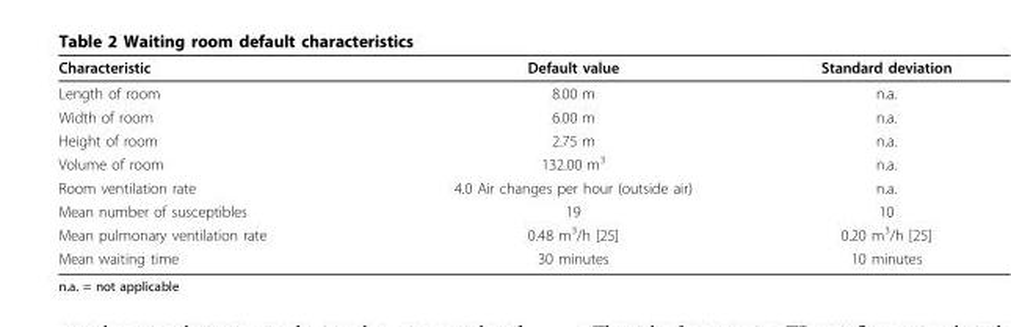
<table><thead><tr><td>Characteristic</td><td>Default value</td><td>Standard deviation</td></tr></thead><tbody><tr><td>Length of room</td><td>8.00 m</td><td>n.a.</td></tr><tr><td>Width of room</td><td>6.00 m</td><td>n.a.</td></tr><tr><td>Height of room</td><td>2.75 m</td><td>n.a.</td></tr><tr><td>Volume of room</td><td>132.00 m<sup>3</sup></td><td>n.a.</td></tr><tr><td>Room ventilation rate</td><td>4.0 Air changes per hour (outside air)</td><td>n.a.</td></tr><tr><td>Mean number of susceptibles</td><td>19</td><td>10</td></tr><tr><td>Mean pulmonary ventilation rate</td><td>0.48 m<sup>3</sup>/h [25]</td><td>0.20 m<sup>3</sup>/h [25]</td></tr><tr><td>Mean waiting time</td><td>30 minutes</td><td>10 minutes</td></tr></tbody></table>